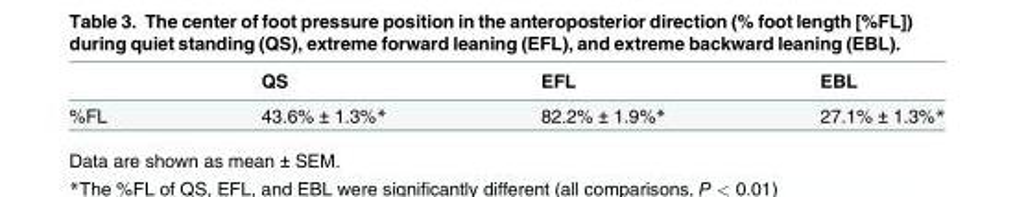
<table><thead><tr><td></td><td>QS</td><td>EFL</td><td>EBL</td></tr></thead><tbody><tr><td>%FL</td><td>43.6% ± 1.3%*</td><td>82.2% ± 1.9%*</td><td>27.1% ± 1.3%*</td></tr></tbody></table>